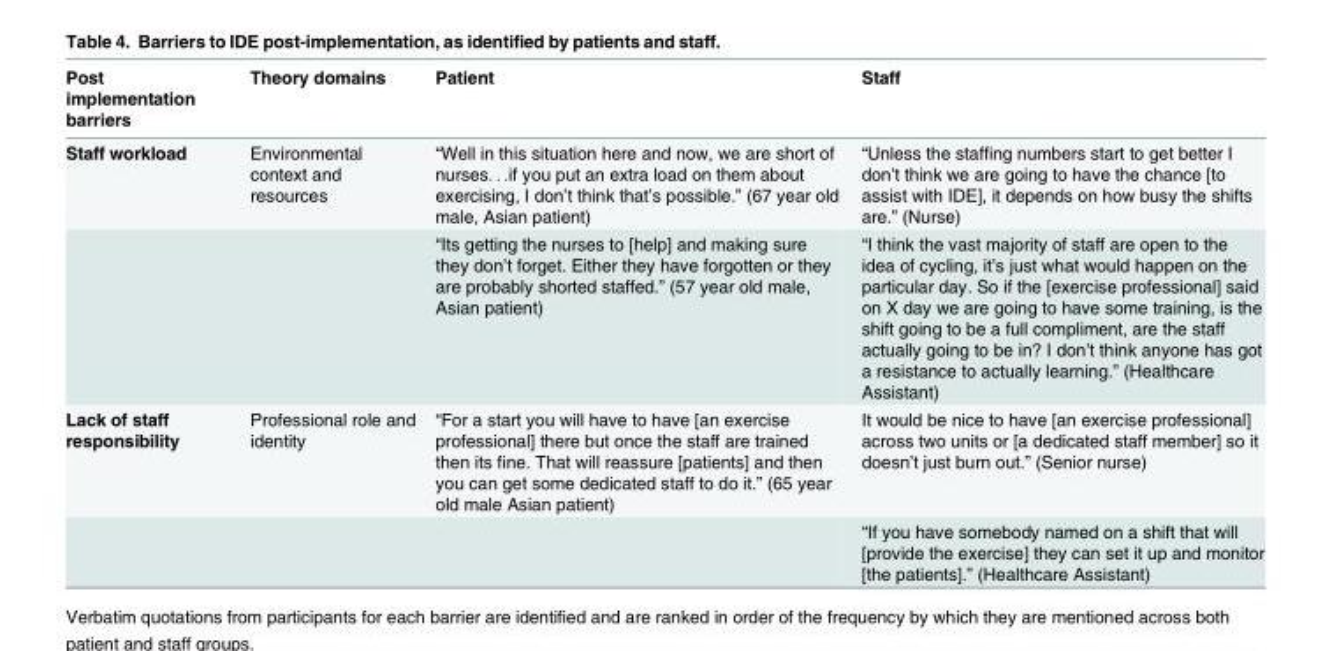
<table><thead><tr><td>Post implementation barriers</td><td>Theory domains</td><td>Patient</td><td>Staff</td></tr></thead><tbody><tr><td rowspan="2">Staff workload</td><td>Environmental context and resources</td><td>“Well in this situation here and now, we are short of nurses. . .if you put an extra load on them about exercising, I don’t think that’s possible.” (67 year old male, Asian patient)</td><td>“Unless the staffing numbers start to get better I don’t think we are going to have the chance [to assist with IDE], it depends on how busy the shifts are.” (Nurse)</td></tr><tr><td></td><td>“Its getting the nurses to [help] and making sure they don’t forget. Either they have forgotten or they are probably shorted staffed.” (57 year old male, Asian patient)</td><td>“I think the vast majority of staff are open to the idea of cycling, it’s just what would happen on the particular day. So if the [exercise professional] said on X day we are going to have some training, is the shift going to be a full compliment, are the staff actually going to be in? I don’t think anyone has got a resistance to actually learning.” (Healthcare Assistant)</td></tr><tr><td rowspan="2">Lack of staff responsibility</td><td>Professional role and identity</td><td>“For a start you will have to have [an exercise professional] there but once the staff are trained then its fine. That will reassure [patients] and then you can get some dedicated staff to do it.” (65 year old male Asian patient)</td><td>It would be nice to have [an exercise professional] across two units or [a dedicated staff member] so it doesn’t just burn out.” (Senior nurse)</td></tr><tr><td></td><td></td><td>“If you have somebody named on a shift that will [provide the exercise] they can set it up and monitor [the patients].” (Healthcare Assistant)</td></tr></tbody></table>